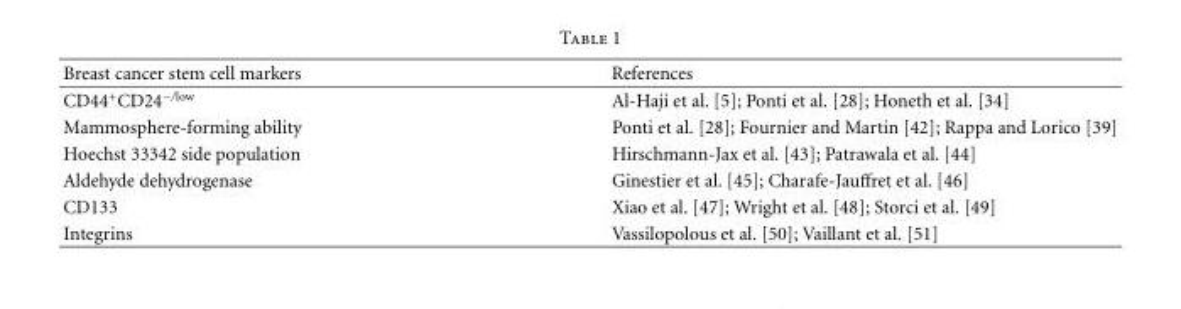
<table><thead><tr><td>Breast cancer stem cell markers</td><td>References</td></tr></thead><tbody><tr><td>CD44<sup>+</sup>CD24<sup>−/low</sup></td><td>Al-Haji et al. [5]; Ponti et al. [28]; Honeth et al. [34]</td></tr><tr><td>Mammosphere-forming ability</td><td>Ponti et al. [28]; Fournier and Martin [42]; Rappa and Lorico [39]</td></tr><tr><td>Hoechst 33342 side population</td><td>Hirschmann-Jax et al. [43]; Patrawala et al. [44]</td></tr><tr><td>Aldehyde dehydrogenase</td><td>Ginestier et al. [45]; Charafe-Jauffret et al. [46]</td></tr><tr><td>CD133</td><td>Xiao et al. [47]; Wright et al. [48]; Storci et al. [49]</td></tr><tr><td>Integrins</td><td>Vassilopolous et al. [50]; Vaillant et al. [51]</td></tr></tbody></table>